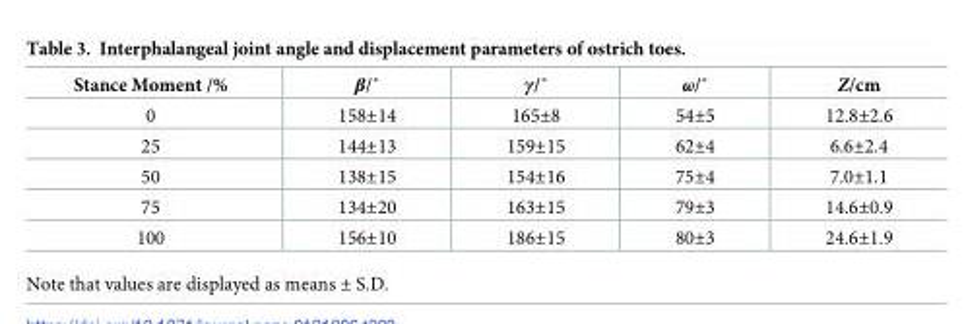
<table><thead><tr><td>Stance Moment /%</td><td>β/˚</td><td>γ/˚</td><td>ω/˚</td><td>Z/cm</td></tr></thead><tbody><tr><td>0</td><td>158±14</td><td>165±8</td><td>54±5</td><td>12.8±2.6</td></tr><tr><td>25</td><td>144±13</td><td>159±15</td><td>62±4</td><td>6.6±2.4</td></tr><tr><td>50</td><td>138±15</td><td>154±16</td><td>75±4</td><td>7.0±1.1</td></tr><tr><td>75</td><td>134±20</td><td>163±15</td><td>79±3</td><td>14.6±0.9</td></tr><tr><td>100</td><td>156±10</td><td>186±15</td><td>80±3</td><td>24.6±1.9</td></tr></tbody></table>